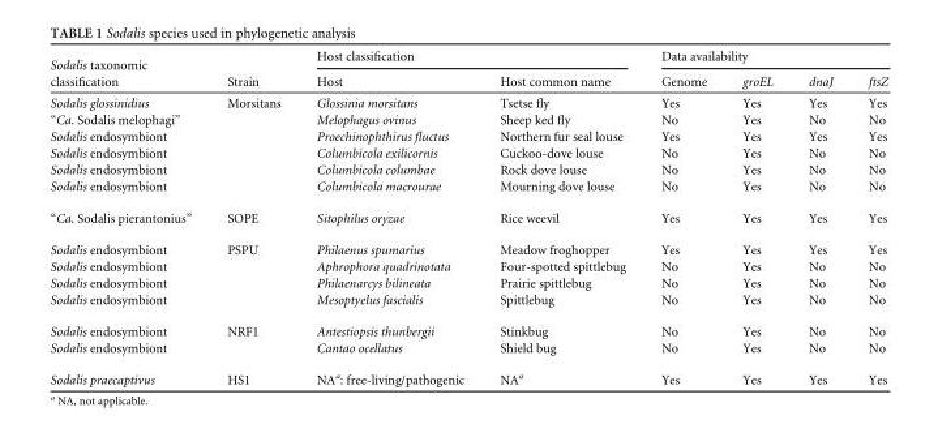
<table><thead><tr><td rowspan="2">Sodalis taxonomic classification</td><td rowspan="2">Strain</td><td colspan="2">Host classification</td><td colspan="4">Data availability</td></tr><tr><td>Host</td><td>Host common name</td><td>Genome</td><td>groEL</td><td>dnaJ</td><td>ftsZ</td></tr></thead><tbody><tr><td>Sodalis glossinidius</td><td>Morsitans</td><td>Glossinia morsitans</td><td>Tsetse fly</td><td>Yes</td><td>Yes</td><td>Yes</td><td>Yes</td></tr><tr><td>“Ca. Sodalis melophagi”</td><td></td><td>Melophagus ovinus</td><td>Sheep ked fly</td><td>No</td><td>Yes</td><td>No</td><td>No</td></tr><tr><td>Sodalis endosymbiont</td><td></td><td>Proechinophthirus fluctus</td><td>Northern fur seal louse</td><td>Yes</td><td>Yes</td><td>Yes</td><td>Yes</td></tr><tr><td>Sodalis endosymbiont</td><td></td><td>Columbicola exilicornis</td><td>Cuckoo-dove louse</td><td>No</td><td>Yes</td><td>No</td><td>No</td></tr><tr><td>Sodalis endosymbiont</td><td></td><td>Columbicola columbae</td><td>Rock dove louse</td><td>No</td><td>Yes</td><td>No</td><td>No</td></tr><tr><td>Sodalis endosymbiont</td><td></td><td>Columbicola macrourae</td><td>Mourning dove louse</td><td>No</td><td>Yes</td><td>No</td><td>No</td></tr><tr><td>“Ca. Sodalis pierantonius”</td><td>SOPE</td><td>Sitophilus oryzae</td><td>Rice weevil</td><td>Yes</td><td>Yes</td><td>Yes</td><td>Yes</td></tr><tr><td>Sodalis endosymbiont</td><td>PSPU</td><td>Philaenus spumarius</td><td>Meadow froghopper</td><td>Yes</td><td>Yes</td><td>Yes</td><td>Yes</td></tr><tr><td>Sodalis endosymbiont</td><td></td><td>Aphrophora quadrinotata</td><td>Four-spotted spittlebug</td><td>No</td><td>Yes</td><td>No</td><td>No</td></tr><tr><td>Sodalis endosymbiont</td><td></td><td>Philaenarcys bilineata</td><td>Prairie spittlebug</td><td>No</td><td>Yes</td><td>No</td><td>No</td></tr><tr><td>Sodalis endosymbiont</td><td></td><td>Mesoptyelus fascialis</td><td>Spittlebug</td><td>No</td><td>Yes</td><td>No</td><td>No</td></tr><tr><td>Sodalis endosymbiont</td><td>NRF1</td><td>Antestiopsis thunbergii</td><td>Stinkbug</td><td>No</td><td>Yes</td><td>No</td><td>No</td></tr><tr><td>Sodalis endosymbiont</td><td></td><td>Cantao ocellatus</td><td>Shield bug</td><td>No</td><td>Yes</td><td>No</td><td>No</td></tr><tr><td>Sodalis praecaptivus</td><td>HS1</td><td>NA<sup>a</sup>: free-living/pathogenic</td><td>NA<sup>a</sup></td><td>Yes</td><td>Yes</td><td>Yes</td><td>Yes</td></tr></tbody></table>